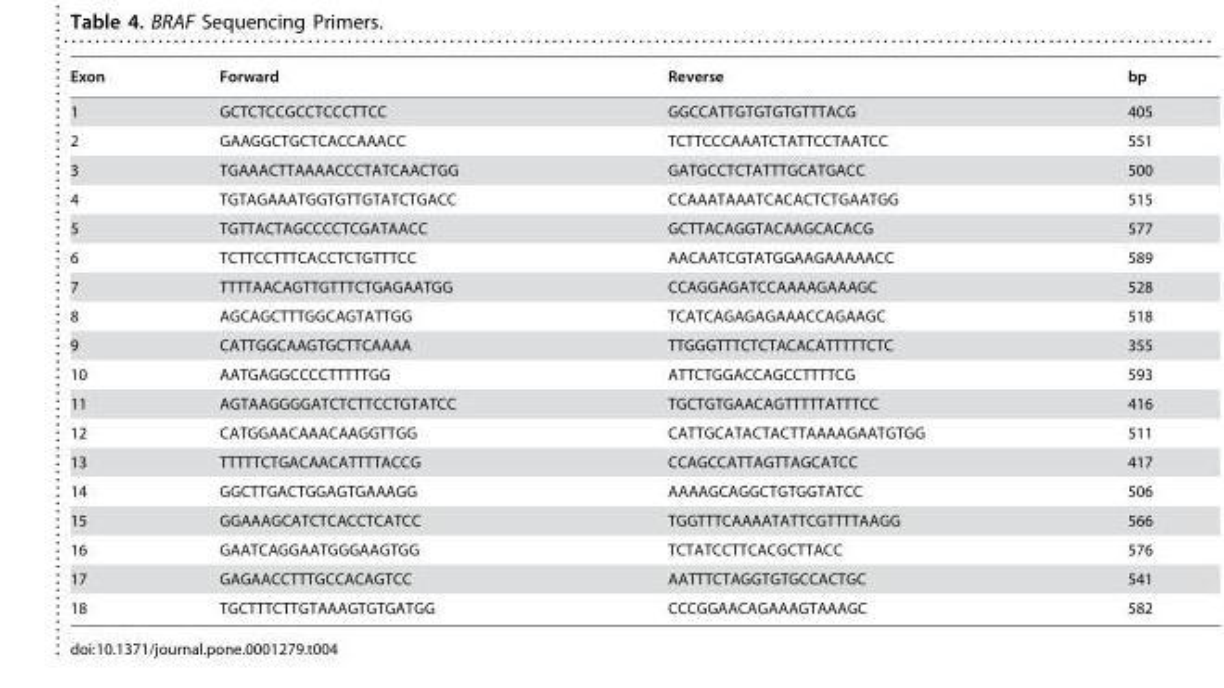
<table><thead><tr><td>Exon</td><td>Forward</td><td>Reverse</td><td>bp</td></tr></thead><tbody><tr><td>1</td><td>GCTCTCCGCCTCCCTTCC</td><td>GGCCATTGTGTGTGTTTACG</td><td>405</td></tr><tr><td>2</td><td>GAAGGCTGCTCACCAAACC</td><td>TCTTCCCAAATCTATTCCTAATCC</td><td>551</td></tr><tr><td>3</td><td>TGAAACTTAAAACCCTATCAACTGG</td><td>GATGCCTCTATTTGCATGACC</td><td>500</td></tr><tr><td>4</td><td>TGTAGAAATGGTGTTGTATCTGACC</td><td>CCAAATAAATCACACTCTGAATGG</td><td>515</td></tr><tr><td>5</td><td>TGTTACTAGCCCCTCGATAACC</td><td>GCTTACAGGTACAAGCACACG</td><td>577</td></tr><tr><td>6</td><td>TCTTCCTTTCACCTCTGTTTCC</td><td>AACAATCGTATGGAAGAAAAACC</td><td>589</td></tr><tr><td>7</td><td>TTTTAACAGTTGTTTCTGAGAATGG</td><td>CCAGGAGATCCAAAAGAAAGC</td><td>528</td></tr><tr><td>8</td><td>AGCAGCTTTGGCAGTATTGG</td><td>TCATCAGAGAGAAACCAGAAGC</td><td>518</td></tr><tr><td>9</td><td>CATTGGCAAGTGCTTCAAAA</td><td>TTGGGTTTCTCTACACATTTTTCTC</td><td>355</td></tr><tr><td>10</td><td>AATGAGGCCCCTTTTTGG</td><td>ATTCTGGACCAGCCTTTTCG</td><td>593</td></tr><tr><td>11</td><td>AGTAAGGGGATCTCTTCCTGTATCC</td><td>TGCTGTGAACAGTTTTTATTTCC</td><td>416</td></tr><tr><td>12</td><td>CATGGAACAAACAAGGTTGG</td><td>CATTGCATACTACTTAAAAGAATGTGG</td><td>511</td></tr><tr><td>13</td><td>TTTTTCTGACAACATTTTACCG</td><td>CCAGCCATTAGTTAGCATCC</td><td>417</td></tr><tr><td>14</td><td>GGCTTGACTGGAGTGAAAGG</td><td>AAAAGCAGGCTGTGGTATCC</td><td>506</td></tr><tr><td>15</td><td>GGAAAGCATCTCACCTCATCC</td><td>TGGTTTCAAAATATTCGTTTTAAGG</td><td>566</td></tr><tr><td>16</td><td>GAATCAGGAATGGGAAGTGG</td><td>TCTATCCTTCACGCTTACC</td><td>576</td></tr><tr><td>17</td><td>GAGAACCTTTGCCACAGTCC</td><td>AATTTCTAGGTGTGCCACTGC</td><td>541</td></tr><tr><td>18</td><td>TGCTTTCTTGTAAAGTGTGATGG</td><td>CCCGGAACAGAAAGTAAAGC</td><td>582</td></tr></tbody></table>